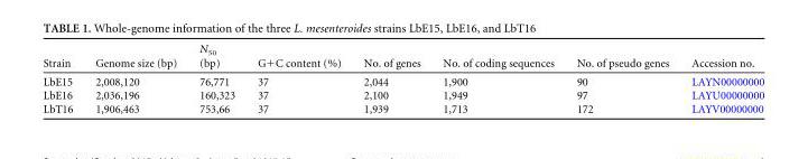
<table><thead><tr><td>Strain</td><td>Genome size (bp)</td><td>N<sub>50</sub> (bp)</td><td>G+C content (%)</td><td>No. of genes</td><td>No. of coding sequences</td><td>No. of pseudo genes</td><td>Accession no.</td></tr></thead><tbody><tr><td>LbE15</td><td>2,008,120</td><td>76,771</td><td>37</td><td>2,044</td><td>1,900</td><td>90</td><td>LAYN00000000</td></tr><tr><td>LbE16</td><td>2,036,196</td><td>160,323</td><td>37</td><td>2,100</td><td>1,949</td><td>97</td><td>LAYU00000000</td></tr><tr><td>LbT16</td><td>1,906,463</td><td>753,66</td><td>37</td><td>1,939</td><td>1,713</td><td>172</td><td>LAYV00000000</td></tr></tbody></table>